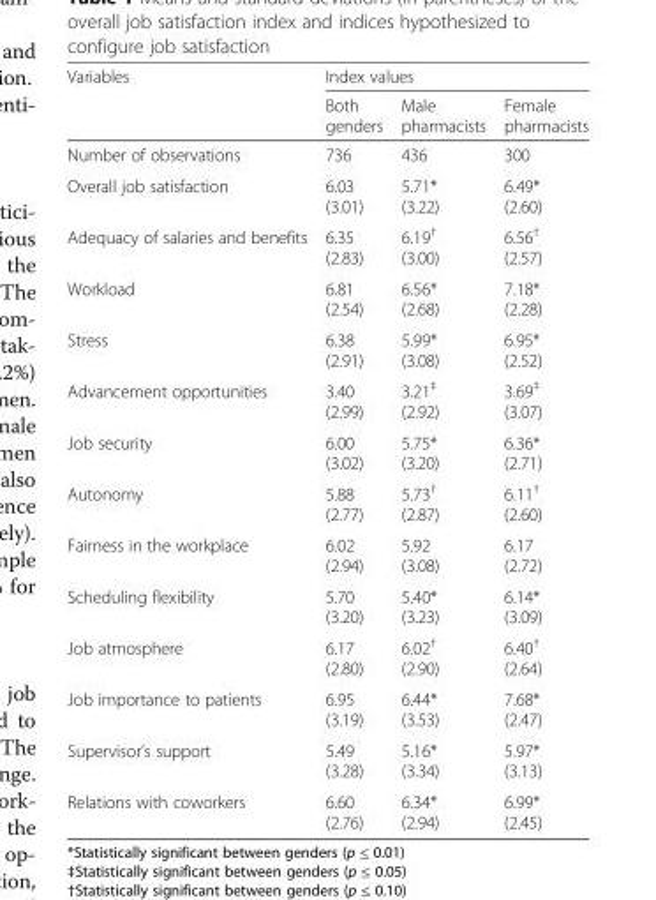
<table><thead><tr><td rowspan="2">Variables</td><td colspan="3">Index values</td></tr><tr><td>Both genders</td><td>Male pharmacists</td><td>Female pharmacists</td></tr></thead><tbody><tr><td>Number of observations</td><td>736</td><td>436</td><td>300</td></tr><tr><td>Overall job satisfaction</td><td>6.03 (3.01)</td><td>5.71* (3.22)</td><td>6.49* (2.60)</td></tr><tr><td>Adequacy of salaries and benefits</td><td>6.35 (2.83)</td><td>6.19<sup>†</sup> (3.00)</td><td>6.56<sup>†</sup> (2.57)</td></tr><tr><td>Workload</td><td>6.81 (2.54)</td><td>6.56* (2.68)</td><td>7.18* (2.28)</td></tr><tr><td>Stress</td><td>6.38 (2.91)</td><td>5.99* (3.08)</td><td>6.95* (2.52)</td></tr><tr><td>Advancement opportunities</td><td>3.40 (2.99)</td><td>3.21<sup>‡</sup> (2.92)</td><td>3.69<sup>‡</sup> (3.07)</td></tr><tr><td>Job security</td><td>6.00 (3.02)</td><td>5.75* (3.20)</td><td>6.36* (2.71)</td></tr><tr><td>Autonomy</td><td>5.88 (2.77)</td><td>5.73<sup>†</sup> (2.87)</td><td>6.11<sup>†</sup> (2.60)</td></tr><tr><td>Fairness in the workplace</td><td>6.02 (2.94)</td><td>5.92 (3.08)</td><td>6.17 (2.72)</td></tr><tr><td>Scheduling flexibility</td><td>5.70 (3.20)</td><td>5.40* (3.23)</td><td>6.14* (3.09)</td></tr><tr><td>Job atmosphere</td><td>6.17 (2.80)</td><td>6.02<sup>†</sup> (2.90)</td><td>6.40<sup>†</sup> (2.64)</td></tr><tr><td>Job importance to patients</td><td>6.95 (3.19)</td><td>6.44* (3.53)</td><td>7.68* (2.47)</td></tr><tr><td>Supervisor’s support</td><td>5.49 (3.28)</td><td>5.16* (3.34)</td><td>5.97* (3.13)</td></tr><tr><td>Relations with coworkers</td><td>6.60 (2.76)</td><td>6.34* (2.94)</td><td>6.99* (2.45)</td></tr></tbody></table>